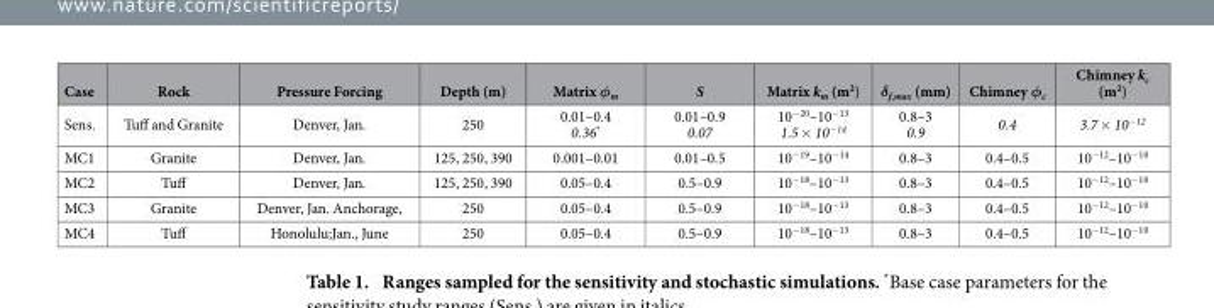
<table><thead><tr><td>Case</td><td>Rock</td><td>Pressure Forcing</td><td>Depth (m)</td><td>Matrix φ<sub>m</sub></td><td>S</td><td>Matrix k<sub>m</sub> (m<sup>2</sup>)</td><td>δ<sub>f,max</sub> (mm)</td><td>Chimney φ<sub>c</sub></td><td>Chimney k<sub>c</sub> (m<sup>2</sup>)</td></tr></thead><tbody><tr><td>Sens.</td><td>Tuff and Granite</td><td>Denver, Jan.</td><td>250</td><td>0.01–0.4 0.36*</td><td>0.01–0.9 0.07</td><td>10<sup>−20</sup>–10<sup>−13</sup> 1.5 × 10<sup>−14</sup></td><td>0.8–3 0.9</td><td>0.4</td><td>3.7 × 10<sup>−12</sup></td></tr><tr><td>MC1</td><td>Granite</td><td>Denver, Jan.</td><td>125, 250, 390</td><td>0.001–0.01</td><td>0.01–0.5</td><td>10<sup>−19</sup>–10<sup>−14</sup></td><td>0.8–3</td><td>0.4–0.5</td><td>10<sup>−12</sup>–10<sup>−10</sup></td></tr><tr><td>MC2</td><td>Tuff</td><td>Denver, Jan.</td><td>125, 250, 390</td><td>0.05–0.4</td><td>0.5–0.9</td><td>10<sup>−18</sup>–10<sup>−13</sup></td><td>0.8–3</td><td>0.4–0.5</td><td>10<sup>−12</sup>–10<sup>−10</sup></td></tr><tr><td>MC3</td><td>Granite</td><td>Denver, Jan. Anchorage,</td><td>250</td><td>0.05–0.4</td><td>0.5–0.9</td><td>10<sup>−18</sup>–10<sup>−13</sup></td><td>0.8–3</td><td>0.4–0.5</td><td>10<sup>−12</sup>–10<sup>−10</sup></td></tr><tr><td>MC4</td><td>Tuff</td><td>Honolulu;Jan., June</td><td>250</td><td>0.05–0.4</td><td>0.5–0.9</td><td>10<sup>−18</sup>–10<sup>−13</sup></td><td>0.8–3</td><td>0.4–0.5</td><td>10<sup>−12</sup>–10<sup>−10</sup></td></tr></tbody></table>